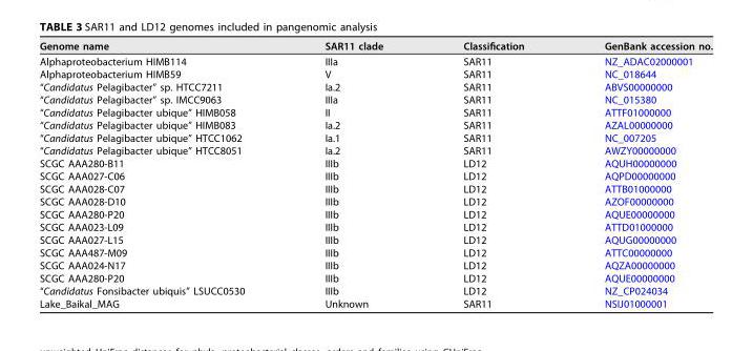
<table><thead><tr><td>Genome name</td><td>SAR11 clade</td><td>Classification</td><td>GenBank accession no.</td></tr></thead><tbody><tr><td>Alphaproteobacterium HIMB114</td><td>IIIa</td><td>SAR11</td><td>NZ_ADAC02000001</td></tr><tr><td>Alphaproteobacterium HIMB59</td><td>V</td><td>SAR11</td><td>NC_018644</td></tr><tr><td>“Candidatus Pelagibacter” sp. HTCC7211</td><td>Ia.2</td><td>SAR11</td><td>ABVS00000000</td></tr><tr><td>“Candidatus Pelagibacter” sp. IMCC9063</td><td>IIIa</td><td>SAR11</td><td>NC_015380</td></tr><tr><td>“Candidatus Pelagibacter ubique” HIMB058</td><td>II</td><td>SAR11</td><td>ATTF01000000</td></tr><tr><td>“Candidatus Pelagibacter ubique” HIMB083</td><td>Ia.2</td><td>SAR11</td><td>AZAL00000000</td></tr><tr><td>“Candidatus Pelagibacter ubique” HTCC1062</td><td>Ia.1</td><td>SAR11</td><td>NC_007205</td></tr><tr><td>“Candidatus Pelagibacter ubique” HTCC8051</td><td>Ia.2</td><td>SAR11</td><td>AWZY00000000</td></tr><tr><td>SCGC AAA280-B11</td><td>IIIb</td><td>LD12</td><td>AQUH00000000</td></tr><tr><td>SCGC AAA027-C06</td><td>IIIb</td><td>LD12</td><td>AQPD00000000</td></tr><tr><td>SCGC AAA028-C07</td><td>IIIb</td><td>LD12</td><td>ATTB01000000</td></tr><tr><td>SCGC AAA028-D10</td><td>IIIb</td><td>LD12</td><td>AZOF00000000</td></tr><tr><td>SCGC AAA280-P20</td><td>IIIb</td><td>LD12</td><td>AQUE00000000</td></tr><tr><td>SCGC AAA023-L09</td><td>IIIb</td><td>LD12</td><td>ATTD01000000</td></tr><tr><td>SCGC AAA027-L15</td><td>IIIb</td><td>LD12</td><td>AQUG00000000</td></tr><tr><td>SCGC AAA487-M09</td><td>IIIb</td><td>LD12</td><td>ATTC00000000</td></tr><tr><td>SCGC AAA024-N17</td><td>IIIb</td><td>LD12</td><td>AQZA00000000</td></tr><tr><td>SCGC AAA280-P20</td><td>IIIb</td><td>LD12</td><td>AQUE00000000</td></tr><tr><td>“Candidatus Fonsibacter ubiquis” LSUCC0530</td><td>IIIb</td><td>LD12</td><td>NZ_CP024034</td></tr><tr><td>Lake_Baikal_MAG</td><td>Unknown</td><td>SAR11</td><td>NSIJ01000001</td></tr></tbody></table>